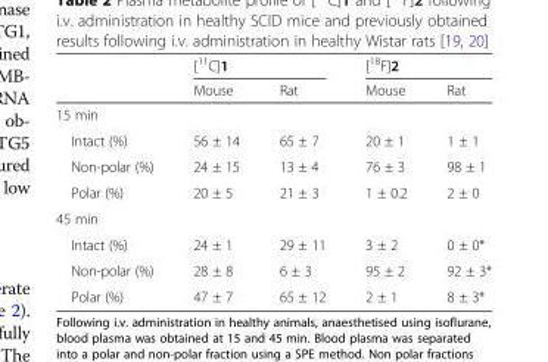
<table><thead><tr><td rowspan="2"></td><td colspan="2">[<sup>11</sup>C]1</td><td colspan="2">[<sup>18</sup>F]2</td></tr><tr><td>Mouse</td><td>Rat</td><td>Mouse</td><td>Rat</td></tr></thead><tbody><tr><td colspan="5">15 min</td></tr><tr><td>Intact (%)</td><td>56 ± 14</td><td>65 ± 7</td><td>20 ± 1</td><td>1 ± 1</td></tr><tr><td>Non-polar (%)</td><td>24 ± 15</td><td>13 ± 4</td><td>76 ± 3</td><td>98 ± 1</td></tr><tr><td>Polar (%)</td><td>20 ± 5</td><td>21 ± 3</td><td>1 ± 0.2</td><td>2 ± 0</td></tr><tr><td colspan="5">45 min</td></tr><tr><td>Intact (%)</td><td>24 ± 1</td><td>29 ± 11</td><td>3 ± 2</td><td>0 ± 0*</td></tr><tr><td>Non-polar (%)</td><td>28 ± 8</td><td>6 ± 3</td><td>95 ± 2</td><td>92 ± 3*</td></tr><tr><td>Polar (%)</td><td>47 ± 7</td><td>65 ± 12</td><td>2 ± 1</td><td>8 ± 3*</td></tr></tbody></table>